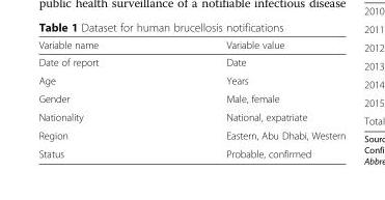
<table><thead><tr><td>Variable name</td><td>Variable value</td></tr></thead><tbody><tr><td>Date of report</td><td>Date</td></tr><tr><td>Age</td><td>Years</td></tr><tr><td>Gender</td><td>Male, female</td></tr><tr><td>Nationality</td><td>National, expatriate</td></tr><tr><td>Region</td><td>Eastern, Abu Dhabi, Western</td></tr><tr><td>Status</td><td>Probable, confirmed</td></tr></tbody></table>